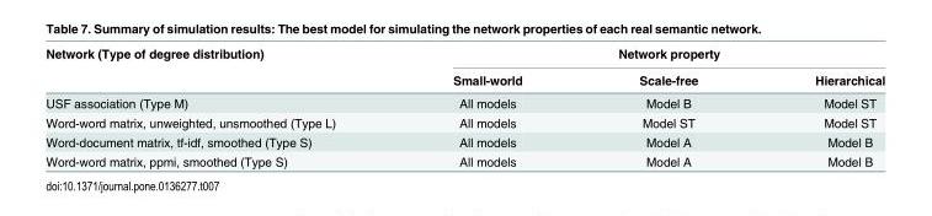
<table><thead><tr><td rowspan="2">Network (Type of degree distribution)</td><td colspan="3">Network property</td></tr><tr><td>Small-world</td><td>Scale-free</td><td>Hierarchical</td></tr></thead><tbody><tr><td>USF association (Type M)</td><td>All models</td><td>Model B</td><td>Model ST</td></tr><tr><td>Word-word matrix, unweighted, unsmoothed (Type L)</td><td>All models</td><td>Model ST</td><td>Model ST</td></tr><tr><td>Word-document matrix, tf-idf, smoothed (Type S)</td><td>All models</td><td>Model A</td><td>Model B</td></tr><tr><td>Word-word matrix, ppmi, smoothed (Type S)</td><td>All models</td><td>Model A</td><td>Model B</td></tr></tbody></table>